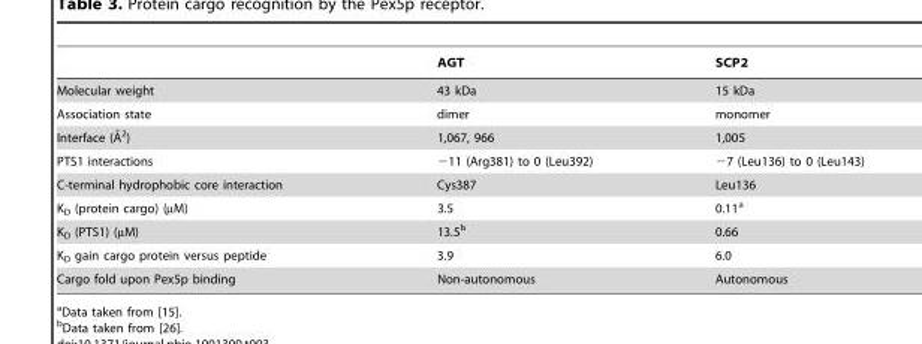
<table><thead><tr><td></td><td>AGT</td><td>SCP2</td></tr></thead><tbody><tr><td>Molecular weight</td><td>43 kDa</td><td>15 kDa</td></tr><tr><td>Association state</td><td>dimer</td><td>monomer</td></tr><tr><td>Interface (A˚ 2)</td><td>1,067, 966</td><td>1,005</td></tr><tr><td>PTS1 interactions</td><td>−11 (Arg381) to 0 (Leu392)</td><td>−7 (Leu136) to 0 (Leu143)</td></tr><tr><td>C-terminal hydrophobic core interaction</td><td>Cys387</td><td>Leu136</td></tr><tr><td>K<sub>D</sub> (protein cargo) (µM)</td><td>3.5</td><td>0.11<sup>a</sup></td></tr><tr><td>K<sub>D</sub> (PTS1) (µM)</td><td>13.5<sup>b</sup></td><td>0.66</td></tr><tr><td>K<sub>D</sub> gain cargo protein versus peptide</td><td>3.9</td><td>6.0</td></tr><tr><td>Cargo fold upon Pex5p binding</td><td>Non-autonomous</td><td>Autonomous</td></tr></tbody></table>